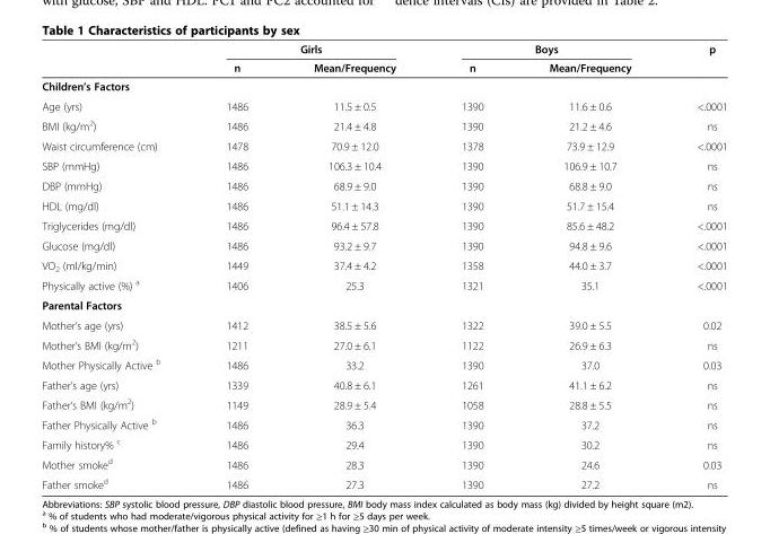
<table><thead><tr><td rowspan="2"></td><td colspan="2">Girls</td><td colspan="2">Boys</td><td rowspan="2">p</td></tr><tr><td>n</td><td>Mean/Frequency</td><td>n</td><td>Mean/Frequency</td></tr></thead><tbody><tr><td colspan="6">Children’s Factors</td></tr><tr><td>Age (yrs)</td><td>1486</td><td>11.5 ± 0.5</td><td>1390</td><td>11.6 ± 0.6</td><td>&lt;.0001</td></tr><tr><td>BMI (kg/m<sup>2</sup>)</td><td>1486</td><td>21.4 ± 4.8</td><td>1390</td><td>21.2 ± 4.6</td><td>ns</td></tr><tr><td>Waist circumference (cm)</td><td>1478</td><td>70.9 ± 12.0</td><td>1378</td><td>73.9 ± 12.9</td><td>&lt;.0001</td></tr><tr><td>SBP (mmHg)</td><td>1486</td><td>106.3 ± 10.4</td><td>1390</td><td>106.9 ± 10.7</td><td>ns</td></tr><tr><td>DBP (mmHg)</td><td>1486</td><td>68.9 ± 9.0</td><td>1390</td><td>68.8 ± 9.0</td><td>ns</td></tr><tr><td>HDL (mg/dl)</td><td>1486</td><td>51.1 ± 14.3</td><td>1390</td><td>51.7 ± 15.4</td><td>ns</td></tr><tr><td>Triglycerides (mg/dl)</td><td>1486</td><td>96.4 ± 57.8</td><td>1390</td><td>85.6 ± 48.2</td><td>&lt;.0001</td></tr><tr><td>Glucose (mg/dl)</td><td>1486</td><td>93.2 ± 9.7</td><td>1390</td><td>94.8 ± 9.6</td><td>&lt;.0001</td></tr><tr><td>VO<sub>2</sub> (ml/kg/min)</td><td>1449</td><td>37.4 ± 4.2</td><td>1358</td><td>44.0 ± 3.7</td><td>&lt;.0001</td></tr><tr><td>Physically active (%) <sup>a</sup></td><td>1406</td><td>25.3</td><td>1321</td><td>35.1</td><td>&lt;.0001</td></tr><tr><td colspan="6">Parental Factors</td></tr><tr><td>Mother’s age (yrs)</td><td>1412</td><td>38.5 ± 5.6</td><td>1322</td><td>39.0 ± 5.5</td><td>0.02</td></tr><tr><td>Mother’s BMI (kg/m<sup>2</sup>)</td><td>1211</td><td>27.0 ± 6.1</td><td>1122</td><td>26.9 ± 6.3</td><td>ns</td></tr><tr><td>Mother Physically Active <sup>b</sup></td><td>1486</td><td>33.2</td><td>1390</td><td>37.0</td><td>0.03</td></tr><tr><td>Father’s age (yrs)</td><td>1339</td><td>40.8 ± 6.1</td><td>1261</td><td>41.1 ± 6.2</td><td>ns</td></tr><tr><td>Father’s BMI (kg/m<sup>2</sup>)</td><td>1149</td><td>28.9 ± 5.4</td><td>1058</td><td>28.8 ± 5.5</td><td>ns</td></tr><tr><td>Father Physically Active <sup>b</sup></td><td>1486</td><td>36.3</td><td>1390</td><td>37.2</td><td>ns</td></tr><tr><td>Family history% <sup>c</sup></td><td>1486</td><td>29.4</td><td>1390</td><td>30.2</td><td>ns</td></tr><tr><td>Mother smoke<sup>d</sup></td><td>1486</td><td>28.3</td><td>1390</td><td>24.6</td><td>0.03</td></tr><tr><td>Father smoke<sup>d</sup></td><td>1486</td><td>27.3</td><td>1390</td><td>27.2</td><td>ns</td></tr></tbody></table>